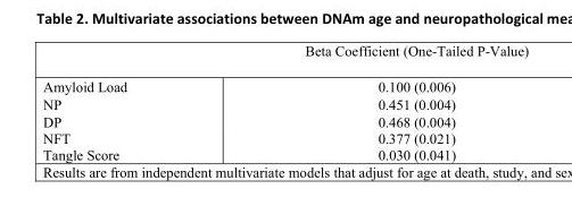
<table><thead><tr><td></td><td>Beta Coefficient (One-Tailed P-Value)</td></tr></thead><tbody><tr><td>Amyloid Load</td><td>0.100 (0.006)</td></tr><tr><td>NP</td><td>0.451 (0.004)</td></tr><tr><td>DP</td><td>0.468 (0.004)</td></tr><tr><td>NFT</td><td>0.377 (0.021)</td></tr><tr><td>Tangle Score</td><td>0.030 (0.041)</td></tr></tbody></table>